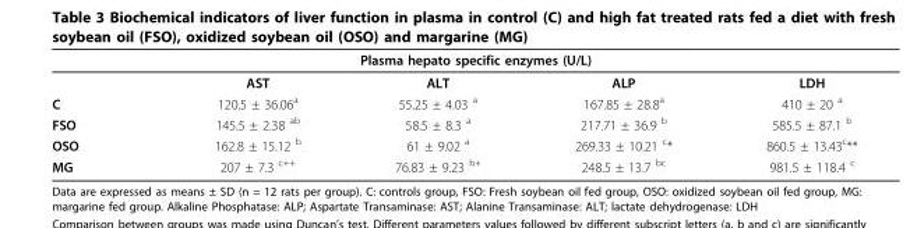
<table><thead><tr><td colspan="5">Plasma hepato specific enzymes (U/L)</td></tr><tr><td></td><td>AST</td><td>ALT</td><td>ALP</td><td>LDH</td></tr></thead><tbody><tr><td>C</td><td>120.5 ± 36.06<sup>a</sup></td><td>55.25 ± 4.03 <sup>a</sup></td><td>167.85 ± 28.8<sup>a</sup></td><td>410 ± 20 <sup>a</sup></td></tr><tr><td>FSO</td><td>145.5 ± 2.38 <sup>ab</sup></td><td>58.5 ± 8.3 <sup>a</sup></td><td>217.71 ± 36.9 <sup>b</sup></td><td>585.5 ± 87.1 <sup>b</sup></td></tr><tr><td>OSO</td><td>162.8 ± 15.12 <sup>b</sup></td><td>61 ± 9.02 <sup>a</sup></td><td>269.33 ± 10.21 <sup>c</sup>*</td><td>860.5 ± 13.43<sup>c</sup>**</td></tr><tr><td>MG</td><td>207 ± 7.3 <sup>c++</sup></td><td>76.83 ± 9.23 <sup>b+</sup></td><td>248.5 ± 13.7 <sup>bc</sup></td><td>981.5 ± 118.4 <sup>c</sup></td></tr></tbody></table>